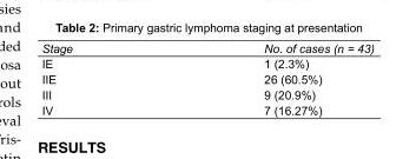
<table><tbody><tr><td>Stage</td><td>No. of cases (n = 43)</td></tr><tr><td>IE</td><td>1 (2.3%)</td></tr><tr><td>IIE</td><td>26 (60.5%)</td></tr><tr><td>III</td><td>9 (20.9%)</td></tr><tr><td>IV</td><td>7 (16.27%)</td></tr></tbody></table>